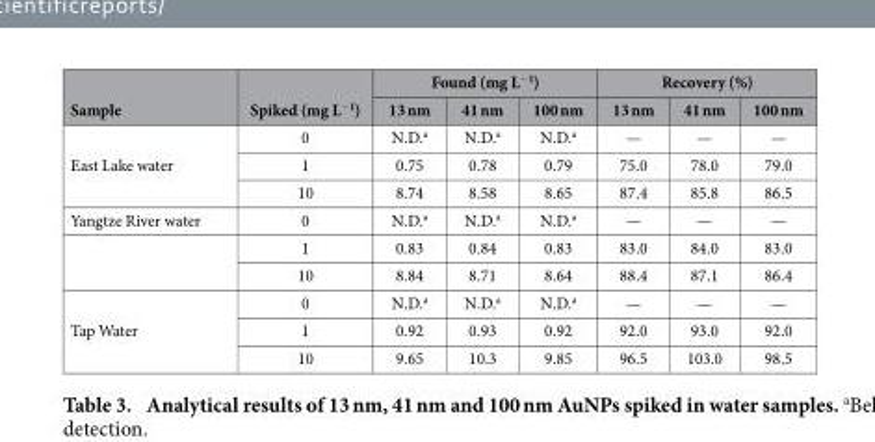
<table><thead><tr><td rowspan="2">Sample</td><td rowspan="2">Spiked (mg L<sup>−1</sup>)</td><td colspan="3">Found (mg L<sup>−1</sup>)</td><td colspan="3">Recovery (%)</td></tr><tr><td>13 nm</td><td>41 nm</td><td>100 nm</td><td>13 nm</td><td>41 nm</td><td>100 nm</td></tr></thead><tbody><tr><td rowspan="3">East Lake water</td><td>0</td><td>N.D.<sup>a</sup></td><td>N.D.<sup>a</sup></td><td>N.D.<sup>a</sup></td><td>—</td><td>—</td><td>—</td></tr><tr><td>1</td><td>0.75</td><td>0.78</td><td>0.79</td><td>75.0</td><td>78.0</td><td>79.0</td></tr><tr><td>10</td><td>8.74</td><td>8.58</td><td>8.65</td><td>87.4</td><td>85.8</td><td>86.5</td></tr><tr><td rowspan="3">Yangtze River water</td><td>0</td><td>N.D.<sup>a</sup></td><td>N.D.<sup>a</sup></td><td>N.D.<sup>a</sup></td><td>—</td><td>—</td><td>—</td></tr><tr><td>1</td><td>0.83</td><td>0.84</td><td>0.83</td><td>83.0</td><td>84.0</td><td>83.0</td></tr><tr><td>10</td><td>8.84</td><td>8.71</td><td>8.64</td><td>88.4</td><td>87.1</td><td>86.4</td></tr><tr><td rowspan="3">Tap Water</td><td>0</td><td>N.D.<sup>a</sup></td><td>N.D.<sup>a</sup></td><td>N.D.<sup>a</sup></td><td>—</td><td>—</td><td>—</td></tr><tr><td>1</td><td>0.92</td><td>0.93</td><td>0.92</td><td>92.0</td><td>93.0</td><td>92.0</td></tr><tr><td>10</td><td>9.65</td><td>10.3</td><td>9.85</td><td>96.5</td><td>103.0</td><td>98.5</td></tr></tbody></table>